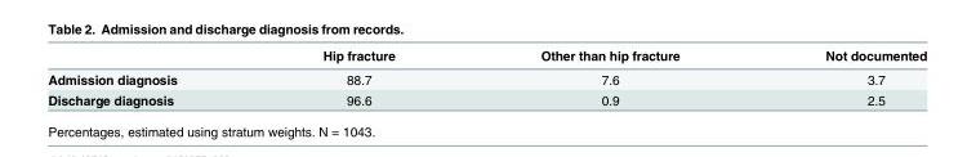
<table><thead><tr><td></td><td>Hip fracture</td><td>Other than hip fracture</td><td>Not documented</td></tr></thead><tbody><tr><td>Admission diagnosis</td><td>88.7</td><td>7.6</td><td>3.7</td></tr><tr><td>Discharge diagnosis</td><td>96.6</td><td>0.9</td><td>2.5</td></tr></tbody></table>